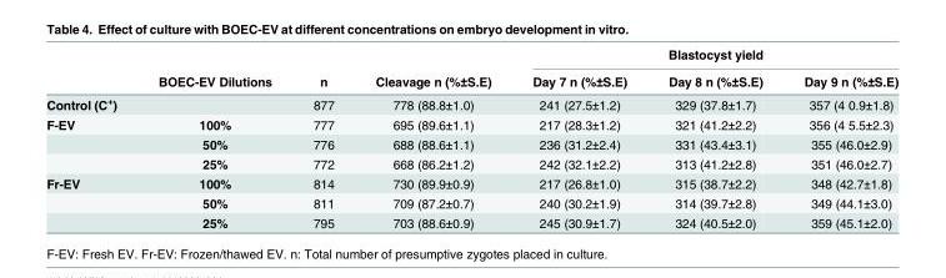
<table><thead><tr><td rowspan="2"></td><td rowspan="2">BOEC-EV Dilutions</td><td rowspan="2">n</td><td rowspan="2">Cleavage n (%±S.E)</td><td colspan="3">Blastocyst yield</td></tr><tr><td>Day 7 n (%±S.E)</td><td>Day 8 n (%±S.E)</td><td>Day 9 n (%±S.E)</td></tr></thead><tbody><tr><td>Control (C<sup>+</sup>)</td><td></td><td>877</td><td>778 (88.8±1.0)</td><td>241 (27.5±1.2)</td><td>329 (37.8±1.7)</td><td>357 (4 0.9±1.8)</td></tr><tr><td rowspan="3">F-EV</td><td>100%</td><td>777</td><td>695 (89.6±1.1)</td><td>217 (28.3±1.2)</td><td>321 (41.2±2.2)</td><td>356 (4 5.5±2.3)</td></tr><tr><td>50%</td><td>776</td><td>688 (88.6±1.1)</td><td>236 (31.2±2.4)</td><td>331 (43.4±3.1)</td><td>355 (46.0±2.9)</td></tr><tr><td>25%</td><td>772</td><td>668 (86.2±1.2)</td><td>242 (32.1±2.2)</td><td>313 (41.2±2.8)</td><td>351 (46.0±2.7)</td></tr><tr><td rowspan="3">Fr-EV</td><td>100%</td><td>814</td><td>730 (89.9±0.9)</td><td>217 (26.8±1.0)</td><td>315 (38.7±2.2)</td><td>348 (42.7±1.8)</td></tr><tr><td>50%</td><td>811</td><td>709 (87.2±0.7)</td><td>240 (30.2±1.9)</td><td>314 (39.7±2.8)</td><td>349 (44.1±3.0)</td></tr><tr><td>25%</td><td>795</td><td>703 (88.6±0.9)</td><td>245 (30.9±1.7)</td><td>324 (40.5±2.0)</td><td>359 (45.1±2.0)</td></tr></tbody></table>